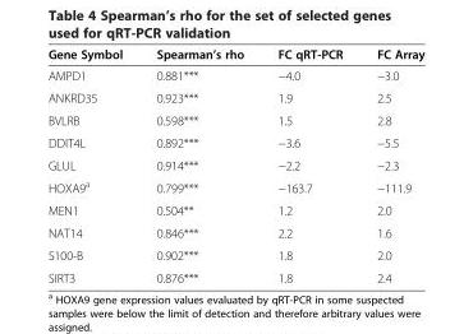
<table><thead><tr><td>Gene Symbol</td><td>Spearman’s rho</td><td>FC qRT-PCR</td><td>FC Array</td></tr></thead><tbody><tr><td>AMPD1</td><td>0.881***</td><td>−4.0</td><td>−3.0</td></tr><tr><td>ANKRD35</td><td>0.923***</td><td>1.9</td><td>2.5</td></tr><tr><td>BVLRB</td><td>0.598***</td><td>1.5</td><td>2.8</td></tr><tr><td>DDIT4L</td><td>0.892***</td><td>−3.6</td><td>−5.5</td></tr><tr><td>GLUL</td><td>0.914***</td><td>−2.2</td><td>−2.3</td></tr><tr><td>HOXA9<sup>a</sup></td><td>0.799***</td><td>−163.7</td><td>−111.9</td></tr><tr><td>MEN1</td><td>0.504**</td><td>1.2</td><td>2.0</td></tr><tr><td>NAT14</td><td>0.846***</td><td>2.2</td><td>1.6</td></tr><tr><td>S100-B</td><td>0.902***</td><td>1.8</td><td>2.0</td></tr><tr><td>SIRT3</td><td>0.876***</td><td>1.8</td><td>2.4</td></tr></tbody></table>